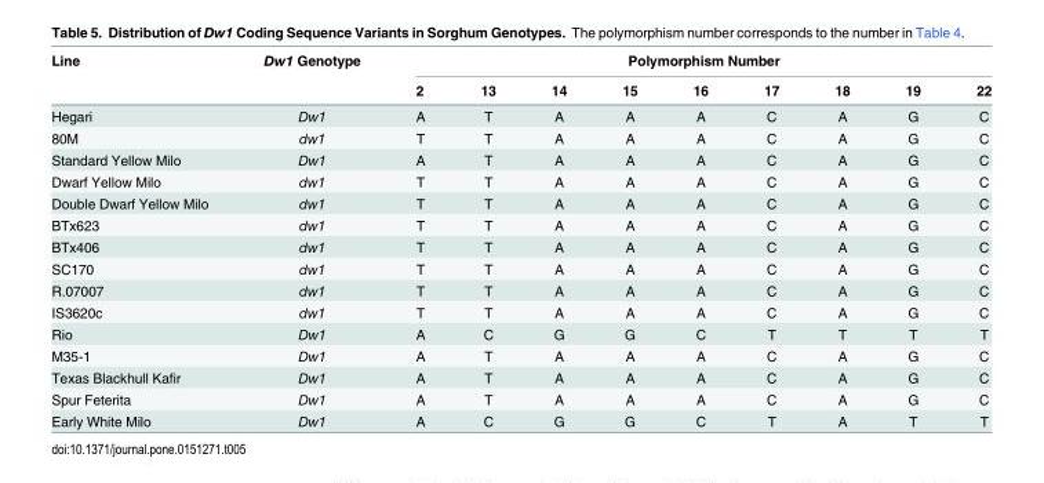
<table><thead><tr><td rowspan="2">Line</td><td rowspan="2">Dw1 Genotype</td><td colspan="9">Polymorphism Number</td></tr><tr><td>2</td><td>13</td><td>14</td><td>15</td><td>16</td><td>17</td><td>18</td><td>19</td><td>22</td></tr></thead><tbody><tr><td>Hegari</td><td>Dw1</td><td>A</td><td>T</td><td>A</td><td>A</td><td>A</td><td>C</td><td>A</td><td>G</td><td>C</td></tr><tr><td>80M</td><td>dw1</td><td>T</td><td>T</td><td>A</td><td>A</td><td>A</td><td>C</td><td>A</td><td>G</td><td>C</td></tr><tr><td>Standard Yellow Milo</td><td>Dw1</td><td>A</td><td>T</td><td>A</td><td>A</td><td>A</td><td>C</td><td>A</td><td>G</td><td>C</td></tr><tr><td>Dwarf Yellow Milo</td><td>dw1</td><td>T</td><td>T</td><td>A</td><td>A</td><td>A</td><td>C</td><td>A</td><td>G</td><td>C</td></tr><tr><td>Double Dwarf Yellow Milo</td><td>dw1</td><td>T</td><td>T</td><td>A</td><td>A</td><td>A</td><td>C</td><td>A</td><td>G</td><td>C</td></tr><tr><td>BTx623</td><td>dw1</td><td>T</td><td>T</td><td>A</td><td>A</td><td>A</td><td>C</td><td>A</td><td>G</td><td>C</td></tr><tr><td>BTx406</td><td>dw1</td><td>T</td><td>T</td><td>A</td><td>A</td><td>A</td><td>C</td><td>A</td><td>G</td><td>C</td></tr><tr><td>SC170</td><td>dw1</td><td>T</td><td>T</td><td>A</td><td>A</td><td>A</td><td>C</td><td>A</td><td>G</td><td>C</td></tr><tr><td>R.07007</td><td>dw1</td><td>T</td><td>T</td><td>A</td><td>A</td><td>A</td><td>C</td><td>A</td><td>G</td><td>C</td></tr><tr><td>IS3620c</td><td>dw1</td><td>T</td><td>T</td><td>A</td><td>A</td><td>A</td><td>C</td><td>A</td><td>G</td><td>C</td></tr><tr><td>Rio</td><td>Dw1</td><td>A</td><td>C</td><td>G</td><td>G</td><td>C</td><td>T</td><td>T</td><td>T</td><td>T</td></tr><tr><td>M35-1</td><td>Dw1</td><td>A</td><td>T</td><td>A</td><td>A</td><td>A</td><td>C</td><td>A</td><td>G</td><td>C</td></tr><tr><td>Texas Blackhull Kafir</td><td>Dw1</td><td>A</td><td>T</td><td>A</td><td>A</td><td>A</td><td>C</td><td>A</td><td>G</td><td>C</td></tr><tr><td>Spur Feterita</td><td>Dw1</td><td>A</td><td>T</td><td>A</td><td>A</td><td>A</td><td>C</td><td>A</td><td>G</td><td>C</td></tr><tr><td>Early White Milo</td><td>Dw1</td><td>A</td><td>C</td><td>G</td><td>G</td><td>C</td><td>T</td><td>A</td><td>T</td><td>T</td></tr></tbody></table>